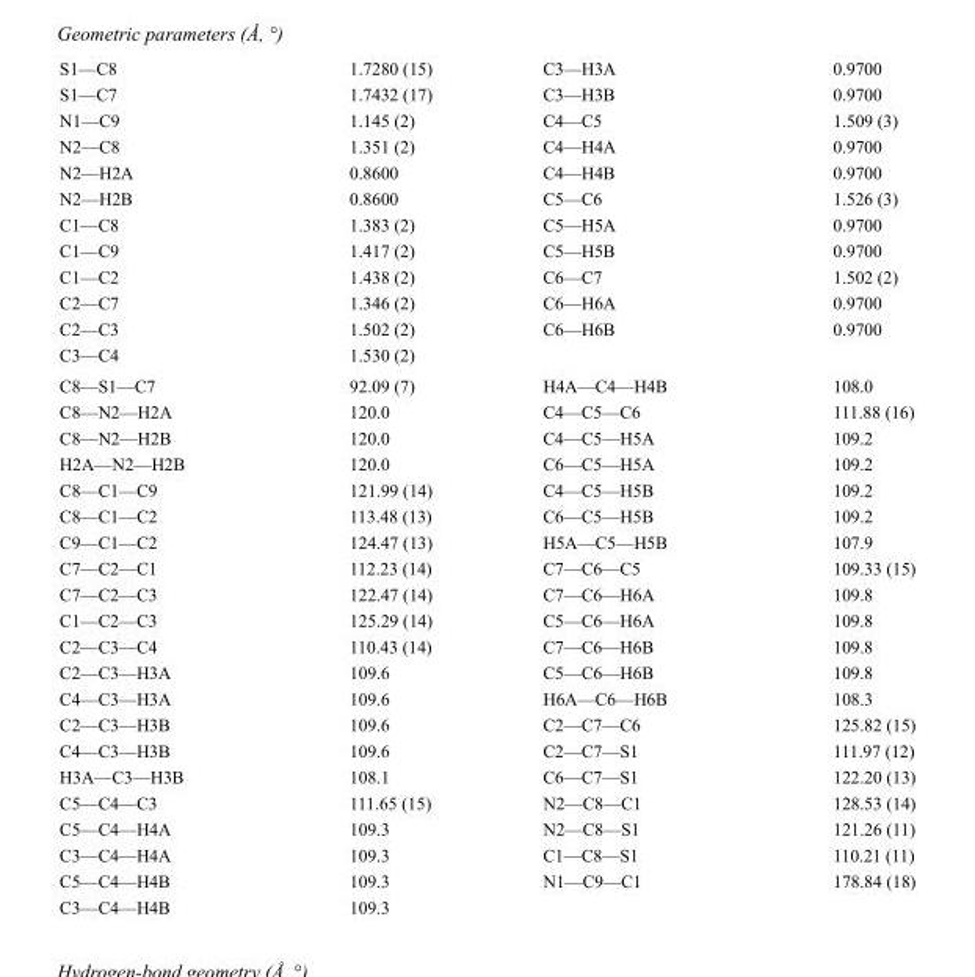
<table><tbody><tr><td>S1—C8</td><td>1.7280 (15)</td><td>C3—H3A</td><td>0.9700</td></tr><tr><td>S1—C7</td><td>1.7432 (17)</td><td>C3—H3B</td><td>0.9700</td></tr><tr><td>N1—C9</td><td>1.145 (2)</td><td>C4—C5</td><td>1.509 (3)</td></tr><tr><td>N2—C8</td><td>1.351 (2)</td><td>C4—H4A</td><td>0.9700</td></tr><tr><td>N2—H2A</td><td>0.8600</td><td>C4—H4B</td><td>0.9700</td></tr><tr><td>N2—H2B</td><td>0.8600</td><td>C5—C6</td><td>1.526 (3)</td></tr><tr><td>C1—C8</td><td>1.383 (2)</td><td>C5—H5A</td><td>0.9700</td></tr><tr><td>C1—C9</td><td>1.417 (2)</td><td>C5—H5B</td><td>0.9700</td></tr><tr><td>C1—C2</td><td>1.438 (2)</td><td>C6—C7</td><td>1.502 (2)</td></tr><tr><td>C2—C7</td><td>1.346 (2)</td><td>C6—H6A</td><td>0.9700</td></tr><tr><td>C2—C3</td><td>1.502 (2)</td><td>C6—H6B</td><td>0.9700</td></tr><tr><td>C3—C4</td><td>1.530 (2)</td><td></td><td></td></tr><tr><td>C8—S1—C7</td><td>92.09 (7)</td><td>H4A—C4—H4B</td><td>108.0</td></tr><tr><td>C8—N2—H2A</td><td>120.0</td><td>C4—C5—C6</td><td>111.88 (16)</td></tr><tr><td>C8—N2—H2B</td><td>120.0</td><td>C4—C5—H5A</td><td>109.2</td></tr><tr><td>H2A—N2—H2B</td><td>120.0</td><td>C6—C5—H5A</td><td>109.2</td></tr><tr><td>C8—C1—C9</td><td>121.99 (14)</td><td>C4—C5—H5B</td><td>109.2</td></tr><tr><td>C8—C1—C2</td><td>113.48 (13)</td><td>C6—C5—H5B</td><td>109.2</td></tr><tr><td>C9—C1—C2</td><td>124.47 (13)</td><td>H5A—C5—H5B</td><td>107.9</td></tr><tr><td>C7—C2—C1</td><td>112.23 (14)</td><td>C7—C6—C5</td><td>109.33 (15)</td></tr><tr><td>C7—C2—C3</td><td>122.47 (14)</td><td>C7—C6—H6A</td><td>109.8</td></tr><tr><td>C1—C2—C3</td><td>125.29 (14)</td><td>C5—C6—H6A</td><td>109.8</td></tr><tr><td>C2—C3—C4</td><td>110.43 (14)</td><td>C7—C6—H6B</td><td>109.8</td></tr><tr><td>C2—C3—H3A</td><td>109.6</td><td>C5—C6—H6B</td><td>109.8</td></tr><tr><td>C4—C3—H3A</td><td>109.6</td><td>H6A—C6—H6B</td><td>108.3</td></tr><tr><td>C2—C3—H3B</td><td>109.6</td><td>C2—C7—C6</td><td>125.82 (15)</td></tr><tr><td>C4—C3—H3B</td><td>109.6</td><td>C2—C7—S1</td><td>111.97 (12)</td></tr><tr><td>H3A—C3—H3B</td><td>108.1</td><td>C6—C7—S1</td><td>122.20 (13)</td></tr><tr><td>C5—C4—C3</td><td>111.65 (15)</td><td>N2—C8—C1</td><td>128.53 (14)</td></tr><tr><td>C5—C4—H4A</td><td>109.3</td><td>N2—C8—S1</td><td>121.26 (11)</td></tr><tr><td>C3—C4—H4A</td><td>109.3</td><td>C1—C8—S1</td><td>110.21 (11)</td></tr><tr><td>C5—C4—H4B</td><td>109.3</td><td>N1—C9—C1</td><td>178.84 (18)</td></tr><tr><td>C3—C4—H4B</td><td>109.3</td><td></td><td></td></tr></tbody></table>